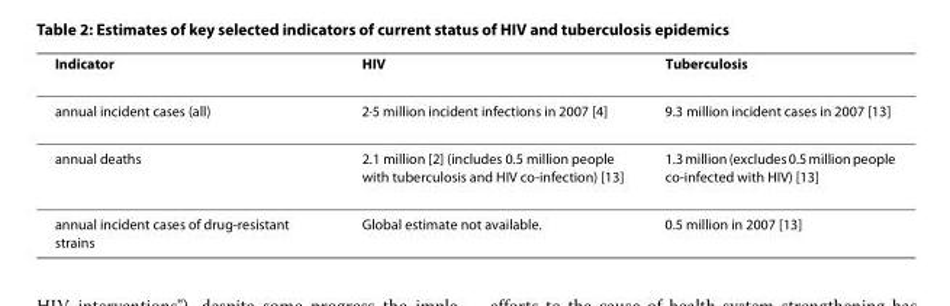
<table><thead><tr><td>Indicator</td><td>HIV</td><td>Tuberculosis</td></tr></thead><tbody><tr><td>annual incident cases (all)</td><td>2·5 million incident infections in 2007 [4]</td><td>9.3 million incident cases in 2007 [13]</td></tr><tr><td>annual deaths</td><td>2.1 million [2] (includes 0.5 million people with tuberculosis and HIV co-infection) [13]</td><td>1.3 million (excludes 0.5 million people co-infected with HIV) [13]</td></tr><tr><td>annual incident cases of drug-resistant strains</td><td>Global estimate not available.</td><td>0.5 million in 2007 [13]</td></tr></tbody></table>